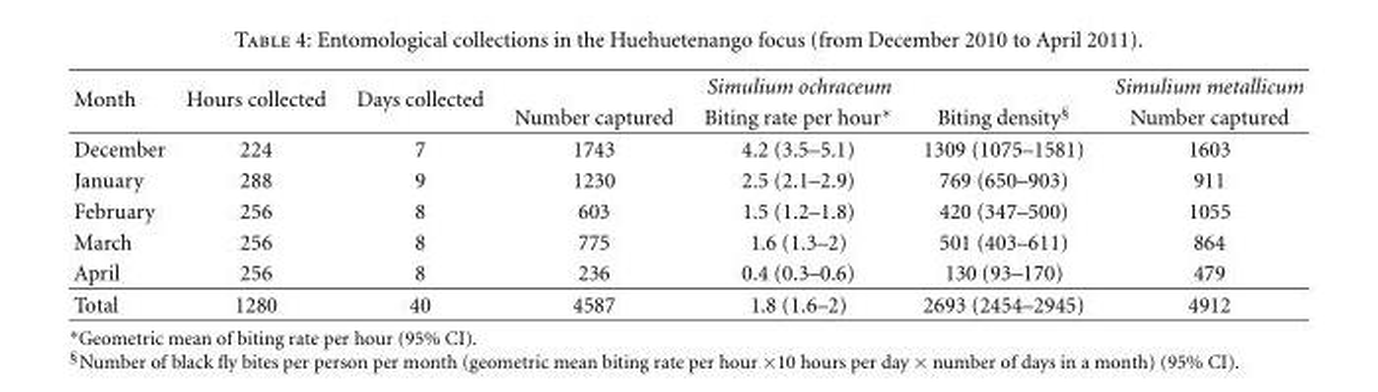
<table><thead><tr><td rowspan="2">Month</td><td rowspan="2">Hours collected</td><td rowspan="2">Days collected</td><td colspan="3">Simulium ochraceum</td><td rowspan="2">Simulium metallicum Number captured</td></tr><tr><td>Number captured</td><td>Biting rate per hour∗</td><td>Biting density<sup>§</sup></td></tr></thead><tbody><tr><td>December</td><td>224</td><td>7</td><td>1743</td><td>4.2 (3.5–5.1)</td><td>1309 (1075–1581)</td><td>1603</td></tr><tr><td>January</td><td>288</td><td>9</td><td>1230</td><td>2.5 (2.1–2.9)</td><td>769 (650–903)</td><td>911</td></tr><tr><td>February</td><td>256</td><td>8</td><td>603</td><td>1.5 (1.2–1.8)</td><td>420 (347–500)</td><td>1055</td></tr><tr><td>March</td><td>256</td><td>8</td><td>775</td><td>1.6 (1.3–2)</td><td>501 (403–611)</td><td>864</td></tr><tr><td>April</td><td>256</td><td>8</td><td>236</td><td>0.4 (0.3–0.6)</td><td>130 (93–170)</td><td>479</td></tr><tr><td>Total</td><td>1280</td><td>40</td><td>4587</td><td>1.8 (1.6–2)</td><td>2693 (2454–2945)</td><td>4912</td></tr></tbody></table>